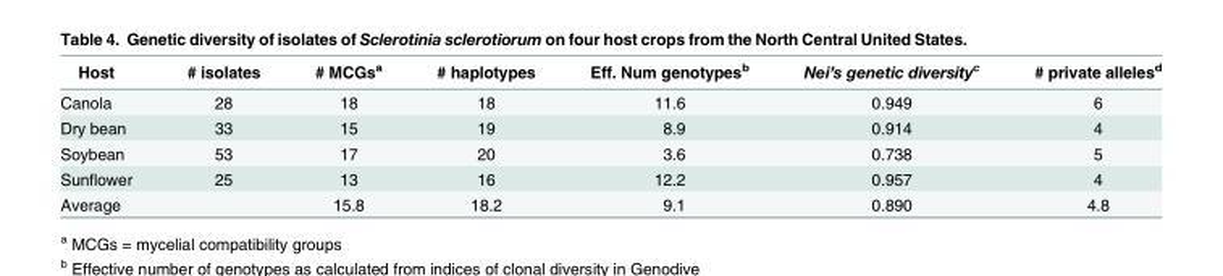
<table><thead><tr><td>Host</td><td># isolates</td><td># MCGs<sup>a</sup></td><td># haplotypes</td><td>Eff. Num genotypes<sup>b</sup></td><td>Nei’s genetic diversity<sup>c</sup></td><td># private alleles<sup>d</sup></td></tr></thead><tbody><tr><td>Canola</td><td>28</td><td>18</td><td>18</td><td>11.6</td><td>0.949</td><td>6</td></tr><tr><td>Dry bean</td><td>33</td><td>15</td><td>19</td><td>8.9</td><td>0.914</td><td>4</td></tr><tr><td>Soybean</td><td>53</td><td>17</td><td>20</td><td>3.6</td><td>0.738</td><td>5</td></tr><tr><td>Sunflower</td><td>25</td><td>13</td><td>16</td><td>12.2</td><td>0.957</td><td>4</td></tr><tr><td>Average</td><td></td><td>15.8</td><td>18.2</td><td>9.1</td><td>0.890</td><td>4.8</td></tr></tbody></table>